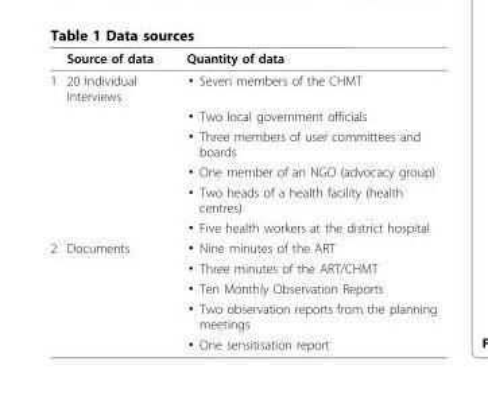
<table><thead><tr><td></td><td>Source of data</td><td>Quantity of data</td></tr></thead><tbody><tr><td rowspan="6">1</td><td>20 Individual Interviews</td><td>▪ Seven members of the CHMT</td></tr><tr><td></td><td>▪ Two local government officials</td></tr><tr><td></td><td>▪ Three members of user committees and boards</td></tr><tr><td></td><td>▪ One member of an NGO (advocacy group)</td></tr><tr><td></td><td>▪ Two heads of a health facility (health centres)</td></tr><tr><td></td><td>▪ Five health workers at the district hospital</td></tr><tr><td rowspan="5">2</td><td>Documents</td><td>▪ Nine minutes of the ART</td></tr><tr><td></td><td>▪ Three minutes of the ART/CHMT</td></tr><tr><td></td><td>▪ Ten Monthly Observation Reports</td></tr><tr><td></td><td>▪ Two observation reports from the planning meetings</td></tr><tr><td></td><td>▪ One sensitisation report</td></tr></tbody></table>